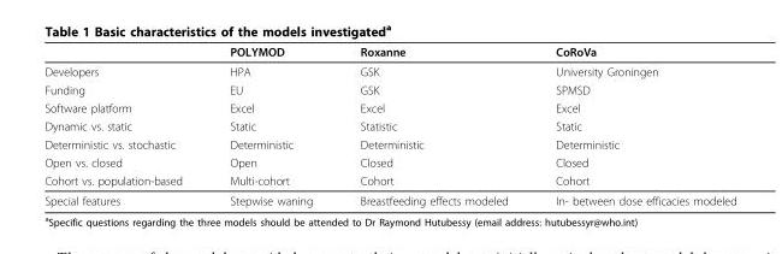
<table><thead><tr><td></td><td>POLYMOD</td><td>Roxanne</td><td>CoRoVa</td></tr></thead><tbody><tr><td>Developers</td><td>HPA</td><td>GSK</td><td>University Groningen</td></tr><tr><td>Funding</td><td>EU</td><td>GSK</td><td>SPMSD</td></tr><tr><td>Software platform</td><td>Excel</td><td>Excel</td><td>Excel</td></tr><tr><td>Dynamic vs. static</td><td>Static</td><td>Statistic</td><td>Static</td></tr><tr><td>Deterministic vs. stochastic</td><td>Deterministic</td><td>Deterministic</td><td>Deterministic</td></tr><tr><td>Open vs. closed</td><td>Open</td><td>Closed</td><td>Closed</td></tr><tr><td>Cohort vs. population-based</td><td>Multi-cohort</td><td>Cohort</td><td>Cohort</td></tr><tr><td>Special features</td><td>Stepwise waning</td><td>Breastfeeding effects modeled</td><td>In- between dose efficacies modeled</td></tr></tbody></table>